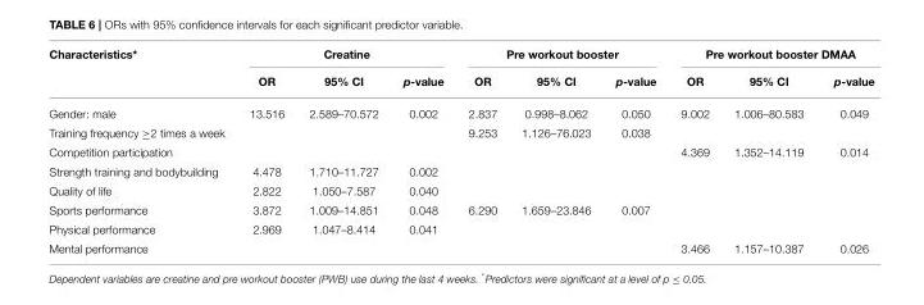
<table><thead><tr><td rowspan="2">Characteristics*</td><td colspan="3">Creatine</td><td colspan="3">Pre workout booster</td><td colspan="3">Pre workout booster DMAA</td></tr><tr><td>OR</td><td>95% CI</td><td>p-value</td><td>OR</td><td>95% CI</td><td>p-value</td><td>OR</td><td>95% CI</td><td>p-value</td></tr></thead><tbody><tr><td>Gender: male</td><td>13.516</td><td>2.589–70.572</td><td>0.002</td><td>2.837</td><td>0.998–8.062</td><td>0.050</td><td>9.002</td><td>1.006–80.583</td><td>0.049</td></tr><tr><td>Training frequency ≥2 times a week</td><td></td><td></td><td></td><td>9.253</td><td>1.126–76.023</td><td>0.038</td><td></td><td></td><td></td></tr><tr><td>Competition participation</td><td></td><td></td><td></td><td></td><td></td><td></td><td>4.369</td><td>1.352–14.119</td><td>0.014</td></tr><tr><td>Strength training and bodybuilding</td><td>4.478</td><td>1.710–11.727</td><td>0.002</td><td></td><td></td><td></td><td></td><td></td><td></td></tr><tr><td>Quality of life</td><td>2.822</td><td>1.050–7.587</td><td>0.040</td><td></td><td></td><td></td><td></td><td></td><td></td></tr><tr><td>Sports performance</td><td>3.872</td><td>1.009–14.851</td><td>0.048</td><td>6.290</td><td>1.659–23.846</td><td>0.007</td><td></td><td></td><td></td></tr><tr><td>Physical performance</td><td>2.969</td><td>1.047–8.414</td><td>0.041</td><td></td><td></td><td></td><td></td><td></td><td></td></tr><tr><td>Mental performance</td><td></td><td></td><td></td><td></td><td></td><td></td><td>3.466</td><td>1.157–10.387</td><td>0.026</td></tr></tbody></table>